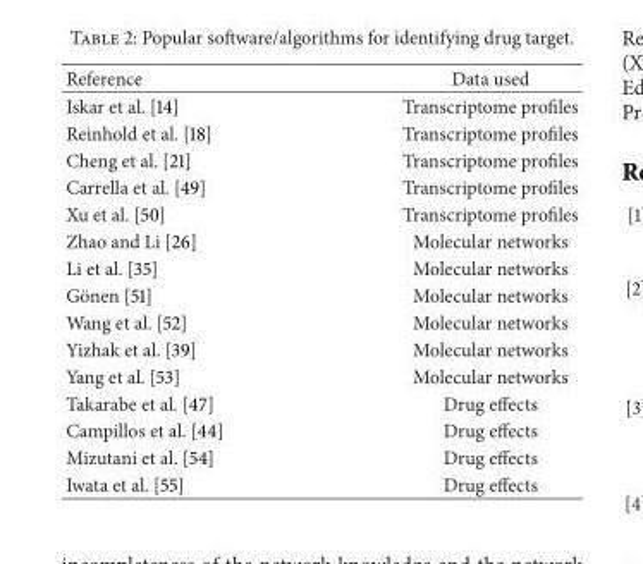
<table><thead><tr><td>Reference</td><td>Data used</td></tr></thead><tbody><tr><td>Iskar et al. [14]</td><td>Transcriptome profiles</td></tr><tr><td>Reinhold et al. [18]</td><td>Transcriptome profiles</td></tr><tr><td>Cheng et al. [21]</td><td>Transcriptome profiles</td></tr><tr><td>Carrella et al. [49]</td><td>Transcriptome profiles</td></tr><tr><td>Xu et al. [50]</td><td>Transcriptome profiles</td></tr><tr><td>Zhao and Li [26]</td><td>Molecular networks</td></tr><tr><td>Li et al. [35]</td><td>Molecular networks</td></tr><tr><td>G¨onen [51]</td><td>Molecular networks</td></tr><tr><td>Wang et al. [52]</td><td>Molecular networks</td></tr><tr><td>Yizhak et al. [39]</td><td>Molecular networks</td></tr><tr><td>Yang et al. [53]</td><td>Molecular networks</td></tr><tr><td>Takarabe et al. [47]</td><td>Drug effects</td></tr><tr><td>Campillos et al. [44]</td><td>Drug effects</td></tr><tr><td>Mizutani et al. [54]</td><td>Drug effects</td></tr><tr><td>Iwata et al. [55]</td><td>Drug effects</td></tr></tbody></table>